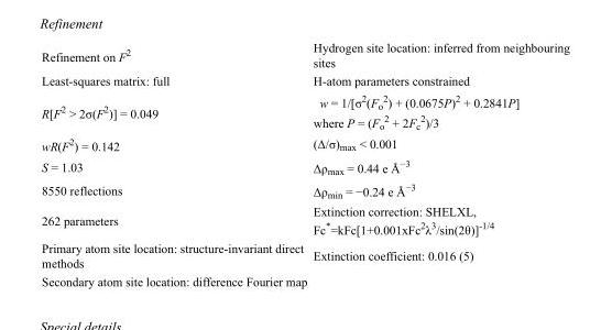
<table><tbody><tr><td>Refinement on F<sup>2</sup></td><td>Hydrogen site location: inferred from neighbouring sites</td></tr><tr><td>Least-squares matrix: full</td><td>H-atom parameters constrained</td></tr><tr><td>R[F<sup>2</sup> &gt; 2σ(F<sup>2</sup>)] = 0.049</td><td>w = 1/[σ<sup>2</sup>(F<sub>o</sub> <sup>2</sup>) + (0.0675P)<sup>2</sup> + 0.2841P] where P = (F<sub>o</sub> <sup>2</sup> + 2F<sub>c</sub> <sup>2</sup>)/3</td></tr><tr><td>wR(F<sup>2</sup>) = 0.142</td><td>(Δ/σ)<sub>max</sub> &lt; 0.001</td></tr><tr><td>S = 1.03</td><td>Δρ<sub>max</sub> = 0.44 e Å<sup>−3</sup></td></tr><tr><td>8550 reflections</td><td>Δρ<sub>min</sub> = −0.24 e Å<sup>−3</sup></td></tr><tr><td>262 parameters</td><td>Extinction correction: SHELXL, Fc*=kFc[1+0.001xFc<sup>2</sup>λ<sup>3</sup>/sin(2θ)]<sup>-1/4</sup></td></tr><tr><td>Primary atom site location: structure-invariant direct methods</td><td>Extinction coefficient: 0.016 (5)</td></tr><tr><td>Secondary atom site location: difference Fourier map</td><td></td></tr></tbody></table>